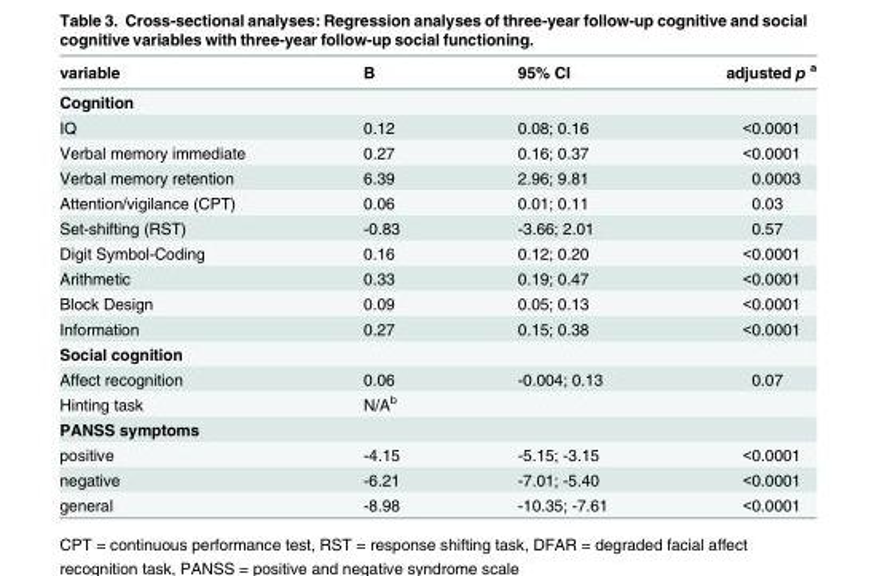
<table><thead><tr><td>variable</td><td>B</td><td>95% CI</td><td>adjusted p <sup>a</sup></td></tr></thead><tbody><tr><td colspan="4">Cognition</td></tr><tr><td>IQ</td><td>0.12</td><td>0.08; 0.16</td><td>&lt;0.0001</td></tr><tr><td>Verbal memory immediate</td><td>0.27</td><td>0.16; 0.37</td><td>&lt;0.0001</td></tr><tr><td>Verbal memory retention</td><td>6.39</td><td>2.96; 9.81</td><td>0.0003</td></tr><tr><td>Attention/vigilance (CPT)</td><td>0.06</td><td>0.01; 0.11</td><td>0.03</td></tr><tr><td>Set-shifting (RST)</td><td>-0.83</td><td>-3.66; 2.01</td><td>0.57</td></tr><tr><td>Digit Symbol-Coding</td><td>0.16</td><td>0.12; 0.20</td><td>&lt;0.0001</td></tr><tr><td>Arithmetic</td><td>0.33</td><td>0.19; 0.47</td><td>&lt;0.0001</td></tr><tr><td>Block Design</td><td>0.09</td><td>0.05; 0.13</td><td>&lt;0.0001</td></tr><tr><td>Information</td><td>0.27</td><td>0.15; 0.38</td><td>&lt;0.0001</td></tr><tr><td colspan="4">Social cognition</td></tr><tr><td>Affect recognition</td><td>0.06</td><td>-0.004; 0.13</td><td>0.07</td></tr><tr><td>Hinting task</td><td>N/A<sup>b</sup></td><td></td><td></td></tr><tr><td colspan="4">PANSS symptoms</td></tr><tr><td>positive</td><td>-4.15</td><td>-5.15; -3.15</td><td>&lt;0.0001</td></tr><tr><td>negative</td><td>-6.21</td><td>-7.01; -5.40</td><td>&lt;0.0001</td></tr><tr><td>general</td><td>-8.98</td><td>-10.35; -7.61</td><td>&lt;0.0001</td></tr></tbody></table>